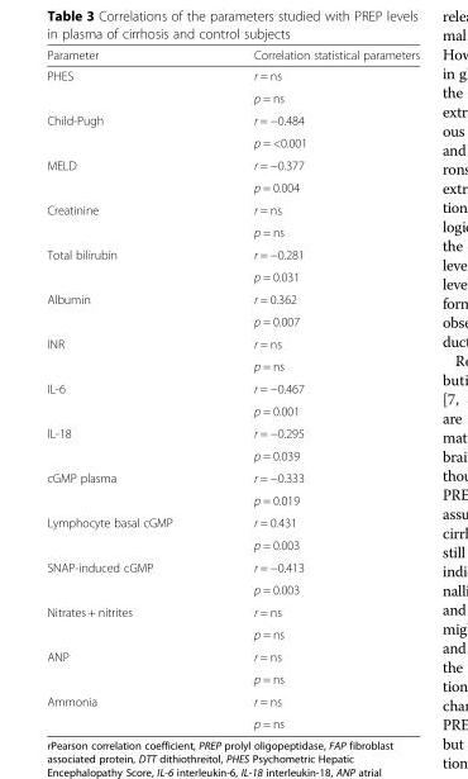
<table><thead><tr><td>Parameter</td><td>Correlation statistical parameters</td></tr></thead><tbody><tr><td rowspan="2">PHES</td><td>r = ns</td></tr><tr><td>p = ns</td></tr><tr><td rowspan="2">Child-Pugh</td><td>r = −0.484</td></tr><tr><td>p = &lt;0.001</td></tr><tr><td rowspan="2">MELD</td><td>r = −0.377</td></tr><tr><td>p = 0.004</td></tr><tr><td rowspan="2">Creatinine</td><td>r = ns</td></tr><tr><td>p = ns</td></tr><tr><td rowspan="2">Total bilirubin</td><td>r = −0.281</td></tr><tr><td>p = 0.031</td></tr><tr><td rowspan="2">Albumin</td><td>r = 0.362</td></tr><tr><td>p = 0.007</td></tr><tr><td rowspan="2">INR</td><td>r = ns</td></tr><tr><td>p = ns</td></tr><tr><td rowspan="2">IL-6</td><td>r = −0.467</td></tr><tr><td>p = 0.001</td></tr><tr><td rowspan="2">IL-18</td><td>r = −0.295</td></tr><tr><td>p = 0.039</td></tr><tr><td rowspan="2">cGMP plasma</td><td>r = −0.333</td></tr><tr><td>p = 0.019</td></tr><tr><td rowspan="2">Lymphocyte basal cGMP</td><td>r = 0.431</td></tr><tr><td>p = 0.003</td></tr><tr><td rowspan="2">SNAP-induced cGMP</td><td>r = −0.413</td></tr><tr><td>p = 0.003</td></tr><tr><td rowspan="2">Nitrates + nitrites</td><td>r = ns</td></tr><tr><td>p = ns</td></tr><tr><td rowspan="2">ANP</td><td>r = ns</td></tr><tr><td>p = ns</td></tr><tr><td rowspan="2">Ammonia</td><td>r = ns</td></tr><tr><td>p = ns</td></tr></tbody></table>